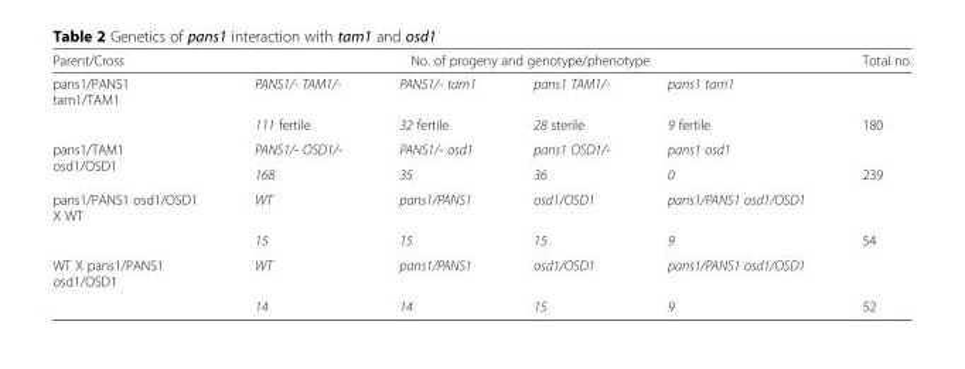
<table><thead><tr><td rowspan="2">Parent/Cross pans1/PANS1 tam1/TAM1</td><td colspan="4">No. of progeny and genotype/phenotype</td><td rowspan="2">Total no.</td></tr><tr><td>PANS1/- TAM1/-</td><td>PANS1/- tam1</td><td>pans1 TAM1/-</td><td>pans1 tam1</td></tr></thead><tbody><tr><td></td><td>111 fertile</td><td>32 fertile</td><td>28 sterile</td><td>9 fertile</td><td>180</td></tr><tr><td rowspan="2">pans1/TAM1 osd1/OSD1</td><td>PANS1/- OSD1/-</td><td>PANS1/- osd1</td><td>pans1 OSD1/-</td><td>pans1 osd1</td><td></td></tr><tr><td>168</td><td>35</td><td>36</td><td>0</td><td>239</td></tr><tr><td rowspan="2">pans1/PANS1 osd1/OSD1 X WT</td><td>WT</td><td>pans1/PANS1</td><td>osd1/OSD1</td><td>pans1/PANS1 osd1/OSD1</td><td></td></tr><tr><td>15</td><td>15</td><td>15</td><td>9</td><td>54</td></tr><tr><td rowspan="2">WT X pans1/PANS1 osd1/OSD1</td><td>WT</td><td>pans1/PANS1</td><td>osd1/OSD1</td><td>pans1/PANS1 osd1/OSD1</td><td></td></tr><tr><td>14</td><td>14</td><td>15</td><td>9</td><td>52</td></tr></tbody></table>